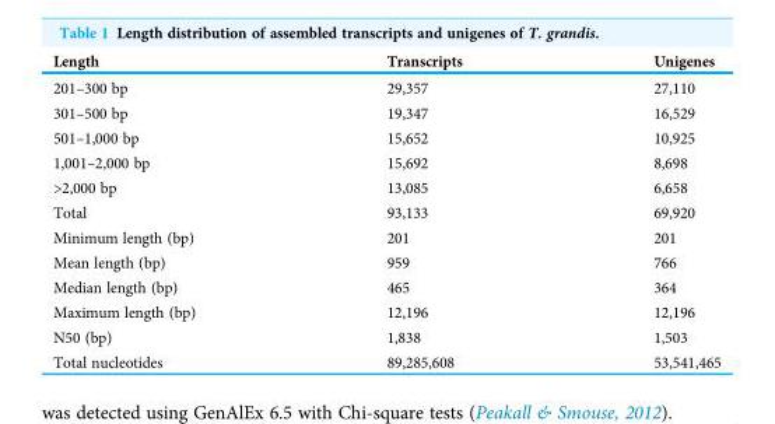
<table><thead><tr><td>Length</td><td>Transcripts</td><td>Unigenes</td></tr></thead><tbody><tr><td>201–300 bp</td><td>29,357</td><td>27,110</td></tr><tr><td>301–500 bp</td><td>19,347</td><td>16,529</td></tr><tr><td>501–1,000 bp</td><td>15,652</td><td>10,925</td></tr><tr><td>1,001–2,000 bp</td><td>15,692</td><td>8,698</td></tr><tr><td>&gt;2,000 bp</td><td>13,085</td><td>6,658</td></tr><tr><td>Total</td><td>93,133</td><td>69,920</td></tr><tr><td>Minimum length (bp)</td><td>201</td><td>201</td></tr><tr><td>Mean length (bp)</td><td>959</td><td>766</td></tr><tr><td>Median length (bp)</td><td>465</td><td>364</td></tr><tr><td>Maximum length (bp)</td><td>12,196</td><td>12,196</td></tr><tr><td>N50 (bp)</td><td>1,838</td><td>1,503</td></tr><tr><td>Total nucleotides</td><td>89,285,608</td><td>53,541,465</td></tr></tbody></table>